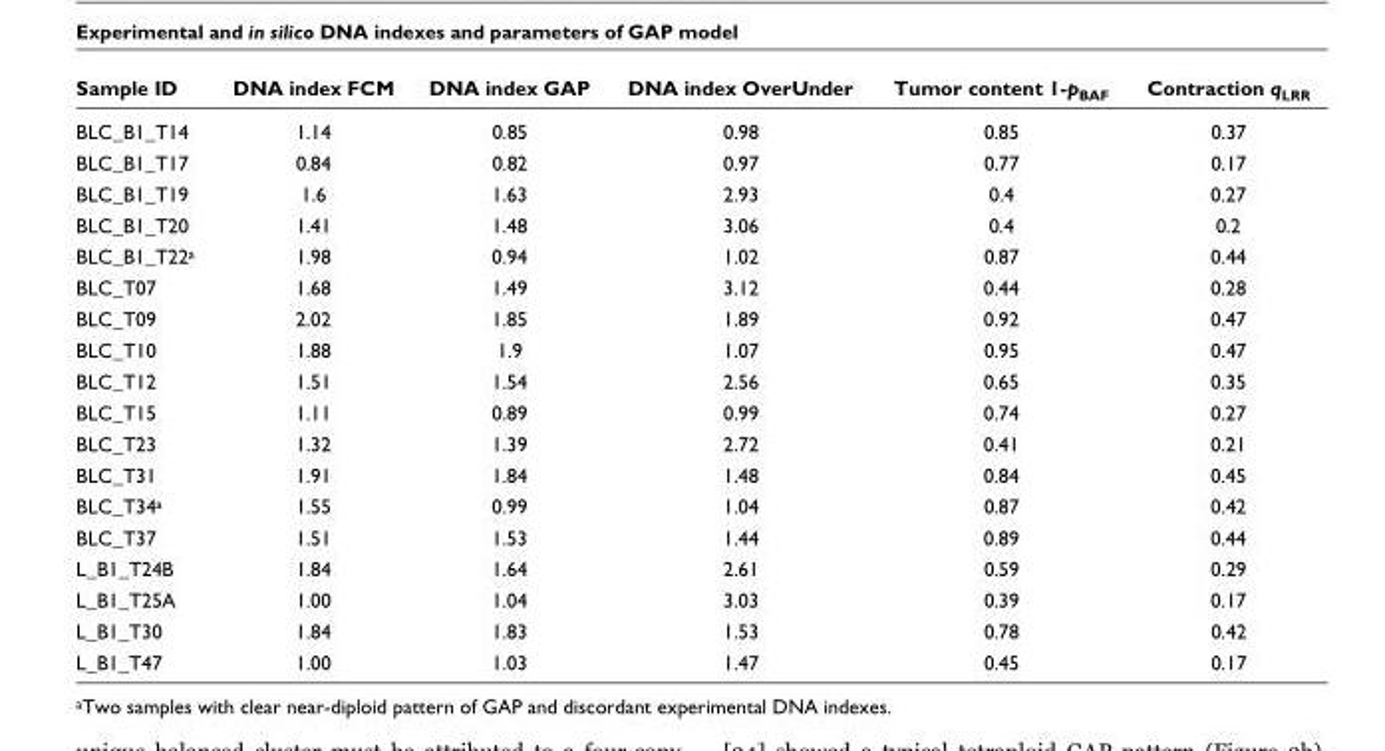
<table><thead><tr><td>Sample ID</td><td>DNA index FCM</td><td>DNA index GAP</td><td>DNA index OverUnder</td><td>Tumor content 1-p<sub>BAF</sub></td><td>Contraction q<sub>LRR</sub></td></tr></thead><tbody><tr><td>BLC_B1_T14</td><td>1.14</td><td>0.85</td><td>0.98</td><td>0.85</td><td>0.37</td></tr><tr><td>BLC_B1_T17</td><td>0.84</td><td>0.82</td><td>0.97</td><td>0.77</td><td>0.17</td></tr><tr><td>BLC_B1_T19</td><td>1.6</td><td>1.63</td><td>2.93</td><td>0.4</td><td>0.27</td></tr><tr><td>BLC_B1_T20</td><td>1.41</td><td>1.48</td><td>3.06</td><td>0.4</td><td>0.2</td></tr><tr><td>BLC_B1_T22<sup>a</sup></td><td>1.98</td><td>0.94</td><td>1.02</td><td>0.87</td><td>0.44</td></tr><tr><td>BLC_T07</td><td>1.68</td><td>1.49</td><td>3.12</td><td>0.44</td><td>0.28</td></tr><tr><td>BLC_T09</td><td>2.02</td><td>1.85</td><td>1.89</td><td>0.92</td><td>0.47</td></tr><tr><td>BLC_T10</td><td>1.88</td><td>1.9</td><td>1.07</td><td>0.95</td><td>0.47</td></tr><tr><td>BLC_T12</td><td>1.51</td><td>1.54</td><td>2.56</td><td>0.65</td><td>0.35</td></tr><tr><td>BLC_T15</td><td>1.11</td><td>0.89</td><td>0.99</td><td>0.74</td><td>0.27</td></tr><tr><td>BLC_T23</td><td>1.32</td><td>1.39</td><td>2.72</td><td>0.41</td><td>0.21</td></tr><tr><td>BLC_T31</td><td>1.91</td><td>1.84</td><td>1.48</td><td>0.84</td><td>0.45</td></tr><tr><td>BLC_T34<sup>a</sup></td><td>1.55</td><td>0.99</td><td>1.04</td><td>0.87</td><td>0.42</td></tr><tr><td>BLC_T37</td><td>1.51</td><td>1.53</td><td>1.44</td><td>0.89</td><td>0.44</td></tr><tr><td>L_B1_T24B</td><td>1.84</td><td>1.64</td><td>2.61</td><td>0.59</td><td>0.29</td></tr><tr><td>L_B1_T25A</td><td>1.00</td><td>1.04</td><td>3.03</td><td>0.39</td><td>0.17</td></tr><tr><td>L_B1_T30</td><td>1.84</td><td>1.83</td><td>1.53</td><td>0.78</td><td>0.42</td></tr><tr><td>L_B1_T47</td><td>1.00</td><td>1.03</td><td>1.47</td><td>0.45</td><td>0.17</td></tr></tbody></table>